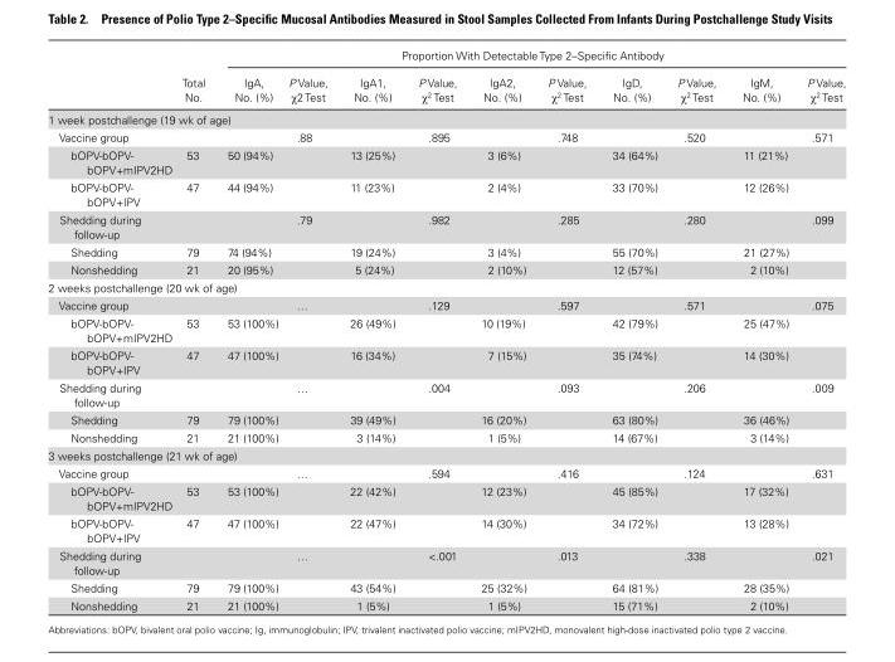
<table><thead><tr><td rowspan="2"></td><td rowspan="2">Total No.</td><td colspan="10">Proportion With Detectable Type 2–Specific Antibody</td></tr><tr><td>IgA, No. (%)</td><td>P Value, χ<sup>2</sup> Test</td><td>IgA1, No. (%)</td><td>P Value, χ<sup>2</sup> Test</td><td>IgA2, No. (%)</td><td>P Value, χ<sup>2</sup> Test</td><td>IgD, No. (%)</td><td>P Value, χ<sup>2</sup> Test</td><td>IgM, No. (%)</td><td>P Value, χ<sup>2</sup> Test</td></tr></thead><tbody><tr><td colspan="12">1 week postchallenge (19 wk of age)</td></tr><tr><td>Vaccine group</td><td></td><td></td><td>.88</td><td></td><td>.895</td><td></td><td>.748</td><td></td><td>.520</td><td></td><td>.571</td></tr><tr><td>bOPV-bOPV- bOPV+mIPV2HD</td><td>53</td><td>50 (94%)</td><td></td><td>13 (25%)</td><td></td><td>3 (6%)</td><td></td><td>34 (64%)</td><td></td><td>11 (21%)</td><td></td></tr><tr><td>bOPV-bOPV- bOPV+IPV</td><td>47</td><td>44 (94%)</td><td></td><td>11 (23%)</td><td></td><td>2 (4%)</td><td></td><td>33 (70%)</td><td></td><td>12 (26%)</td><td></td></tr><tr><td>Shedding during follow-up</td><td></td><td></td><td>.79</td><td></td><td>.982</td><td></td><td>.285</td><td></td><td>.280</td><td></td><td>.099</td></tr><tr><td>Shedding</td><td>79</td><td>74 (94%)</td><td></td><td>19 (24%)</td><td></td><td>3 (4%)</td><td></td><td>55 (70%)</td><td></td><td>21 (27%)</td><td></td></tr><tr><td>Nonshedding</td><td>21</td><td>20 (95%)</td><td></td><td>5 (24%)</td><td></td><td>2 (10%)</td><td></td><td>12 (57%)</td><td></td><td>2 (10%)</td><td></td></tr><tr><td colspan="12">2 weeks postchallenge (20 wk of age)</td></tr><tr><td>Vaccine group</td><td></td><td></td><td>…</td><td></td><td>.129</td><td></td><td>.597</td><td></td><td>.571</td><td></td><td>.075</td></tr><tr><td>bOPV-bOPV- bOPV+mIPV2HD</td><td>53</td><td>53 (100%)</td><td></td><td>26 (49%)</td><td></td><td>10 (19%)</td><td></td><td>42 (79%)</td><td></td><td>25 (47%)</td><td></td></tr><tr><td>bOPV-bOPV- bOPV+IPV</td><td>47</td><td>47 (100%)</td><td></td><td>16 (34%)</td><td></td><td>7 (15%)</td><td></td><td>35 (74%)</td><td></td><td>14 (30%)</td><td></td></tr><tr><td>Shedding during follow-up</td><td></td><td></td><td>…</td><td></td><td>.004</td><td></td><td>.093</td><td></td><td>.206</td><td></td><td>.009</td></tr><tr><td>Shedding</td><td>79</td><td>79 (100%)</td><td></td><td>39 (49%)</td><td></td><td>16 (20%)</td><td></td><td>63 (80%)</td><td></td><td>36 (46%)</td><td></td></tr><tr><td>Nonshedding</td><td>21</td><td>21 (100%)</td><td></td><td>3 (14%)</td><td></td><td>1 (5%)</td><td></td><td>14 (67%)</td><td></td><td>3 (14%)</td><td></td></tr><tr><td colspan="12">3 weeks postchallenge (21 wk of age)</td></tr><tr><td>Vaccine group</td><td></td><td></td><td>…</td><td></td><td>.594</td><td></td><td>.416</td><td></td><td>.124</td><td></td><td>.631</td></tr><tr><td>bOPV-bOPV- bOPV+mIPV2HD</td><td>53</td><td>53 (100%)</td><td></td><td>22 (42%)</td><td></td><td>12 (23%)</td><td></td><td>45 (85%)</td><td></td><td>17 (32%)</td><td></td></tr><tr><td>bOPV-bOPV- bOPV+IPV</td><td>47</td><td>47 (100%)</td><td></td><td>22 (47%)</td><td></td><td>14 (30%)</td><td></td><td>34 (72%)</td><td></td><td>13 (28%)</td><td></td></tr><tr><td>Shedding during follow-up</td><td></td><td></td><td>…</td><td></td><td>&lt;.001</td><td></td><td>.013</td><td></td><td>.338</td><td></td><td>.021</td></tr><tr><td>Shedding</td><td>79</td><td>79 (100%)</td><td></td><td>43 (54%)</td><td></td><td>25 (32%)</td><td></td><td>64 (81%)</td><td></td><td>28 (35%)</td><td></td></tr><tr><td>Nonshedding</td><td>21</td><td>21 (100%)</td><td></td><td>1 (5%)</td><td></td><td>1 (5%)</td><td></td><td>15 (71%)</td><td></td><td>2 (10%)</td><td></td></tr></tbody></table>